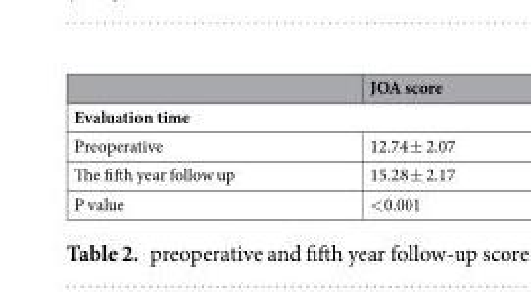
<table><thead><tr><td></td><td>JOA score</td></tr></thead><tbody><tr><td colspan="2">Evaluation time</td></tr><tr><td>Preoperative</td><td>12.74 ± 2.07</td></tr><tr><td>The fifth year follow up</td><td>15.28 ± 2.17</td></tr><tr><td>P value</td><td>&lt;0.001</td></tr></tbody></table>